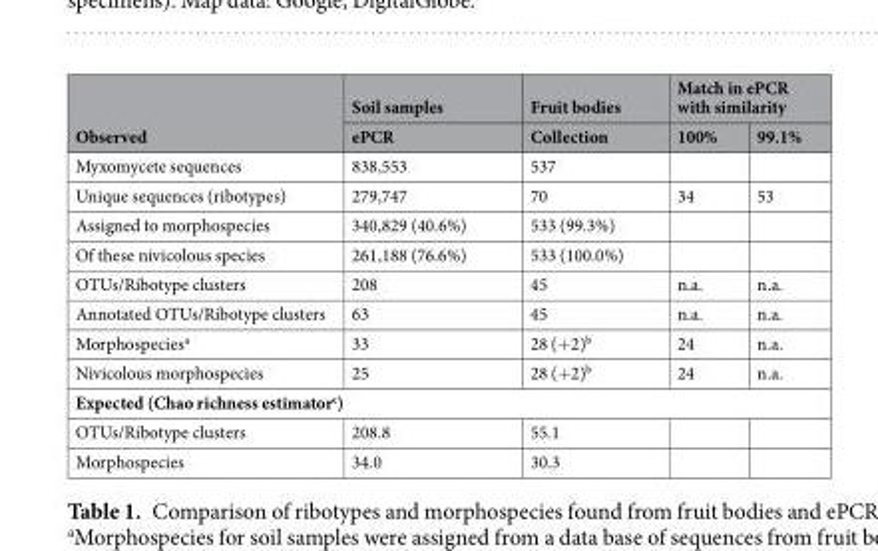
<table><thead><tr><td rowspan="2">Observed</td><td rowspan="2">Soil samples ePCR</td><td rowspan="2">Fruit bodies Collection</td><td colspan="2">Match in ePCR with similarity</td></tr><tr><td>100%</td><td>99.1%</td></tr></thead><tbody><tr><td>Myxomycete sequences</td><td>838,553</td><td>537</td><td></td><td></td></tr><tr><td>Unique sequences (ribotypes)</td><td>279,747</td><td>70</td><td>34</td><td>53</td></tr><tr><td>Assigned to morphospecies</td><td>340,829 (40.6%)</td><td>533 (99.3%)</td><td></td><td></td></tr><tr><td>Of these nivicolous species</td><td>261,188 (76.6%)</td><td>533 (100.0%)</td><td></td><td></td></tr><tr><td>OTUs/Ribotype clusters</td><td>208</td><td>45</td><td>n.a.</td><td>n.a.</td></tr><tr><td>Annotated OTUs/Ribotype clusters</td><td>63</td><td>45</td><td>n.a.</td><td>n.a.</td></tr><tr><td>Morphospecies<sup>a</sup></td><td>33</td><td>28 (+2)<sup>b</sup></td><td>24</td><td>n.a.</td></tr><tr><td>Nivicolous morphospecies</td><td>25</td><td>28 (+2)<sup>b</sup></td><td>24</td><td>n.a.</td></tr><tr><td colspan="5">Expected (Chao richness estimator<sup>c</sup>)</td></tr><tr><td>OTUs/Ribotype clusters</td><td>208.8</td><td>55.1</td><td></td><td></td></tr><tr><td>Morphospecies</td><td>34.0</td><td>30.3</td><td></td><td></td></tr></tbody></table>